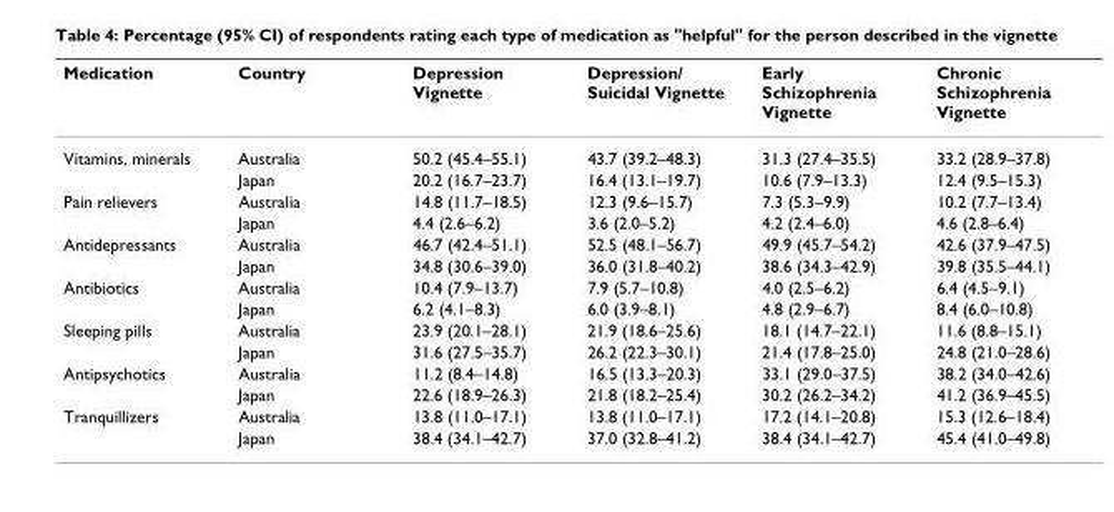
<table><thead><tr><td>Medication</td><td>Country</td><td>Depression Vignette</td><td>Depression/ Suicidal Vignette</td><td>Early Schizophrenia Vignette</td><td>Chronic Schizophrenia Vignette</td></tr></thead><tbody><tr><td rowspan="2">Vitamins, minerals</td><td>Australia</td><td>50.2 (45.4–55.1)</td><td>43.7 (39.2–48.3)</td><td>31.3 (27.4–35.5)</td><td>33.2 (28.9–37.8)</td></tr><tr><td>Japan</td><td>20.2 (16.7–23.7)</td><td>16.4 (13.1–19.7)</td><td>10.6 (7.9–13.3)</td><td>12.4 (9.5–15.3)</td></tr><tr><td rowspan="2">Pain relievers</td><td>Australia</td><td>14.8 (11.7–18.5)</td><td>12.3 (9.6–15.7)</td><td>7.3 (5.3–9.9)</td><td>10.2 (7.7–13.4)</td></tr><tr><td>Japan</td><td>4.4 (2.6–6.2)</td><td>3.6 (2.0–5.2)</td><td>4.2 (2.4–6.0)</td><td>4.6 (2.8–6.4)</td></tr><tr><td rowspan="2">Antidepressants</td><td>Australia</td><td>46.7 (42.4–51.1)</td><td>52.5 (48.1–56.7)</td><td>49.9 (45.7–54.2)</td><td>42.6 (37.9–47.5)</td></tr><tr><td>Japan</td><td>34.8 (30.6–39.0)</td><td>36.0 (31.8–40.2)</td><td>38.6 (34.3–42.9)</td><td>39.8 (35.5–44.1)</td></tr><tr><td rowspan="2">Antibiotics</td><td>Australia</td><td>10.4 (7.9–13.7)</td><td>7.9 (5.7–10.8)</td><td>4.0 (2.5–6.2)</td><td>6.4 (4.5–9.1)</td></tr><tr><td>Japan</td><td>6.2 (4.1–8.3)</td><td>6.0 (3.9–8.1)</td><td>4.8 (2.9–6.7)</td><td>8.4 (6.0–10.8)</td></tr><tr><td rowspan="2">Sleeping pills</td><td>Australia</td><td>23.9 (20.1–28.1)</td><td>21.9 (18.6–25.6)</td><td>18.1 (14.7–22.1)</td><td>11.6 (8.8–15.1)</td></tr><tr><td>Japan</td><td>31.6 (27.5–35.7)</td><td>26.2 (22.3–30.1)</td><td>21.4 (17.8–25.0)</td><td>24.8 (21.0–28.6)</td></tr><tr><td rowspan="2">Antipsychotics</td><td>Australia</td><td>11.2 (8.4–14.8)</td><td>16.5 (13.3–20.3)</td><td>33.1 (29.0–37.5)</td><td>38.2 (34.0–42.6)</td></tr><tr><td>Japan</td><td>22.6 (18.9–26.3)</td><td>21.8 (18.2–25.4)</td><td>30.2 (26.2–34.2)</td><td>41.2 (36.9–45.5)</td></tr><tr><td rowspan="2">Tranquillizers</td><td>Australia</td><td>13.8 (11.0–17.1)</td><td>13.8 (11.0–17.1)</td><td>17.2 (14.1–20.8)</td><td>15.3 (12.6–18.4)</td></tr><tr><td>Japan</td><td>38.4 (34.1–42.7)</td><td>37.0 (32.8–41.2)</td><td>38.4 (34.1–42.7)</td><td>45.4 (41.0–49.8)</td></tr></tbody></table>